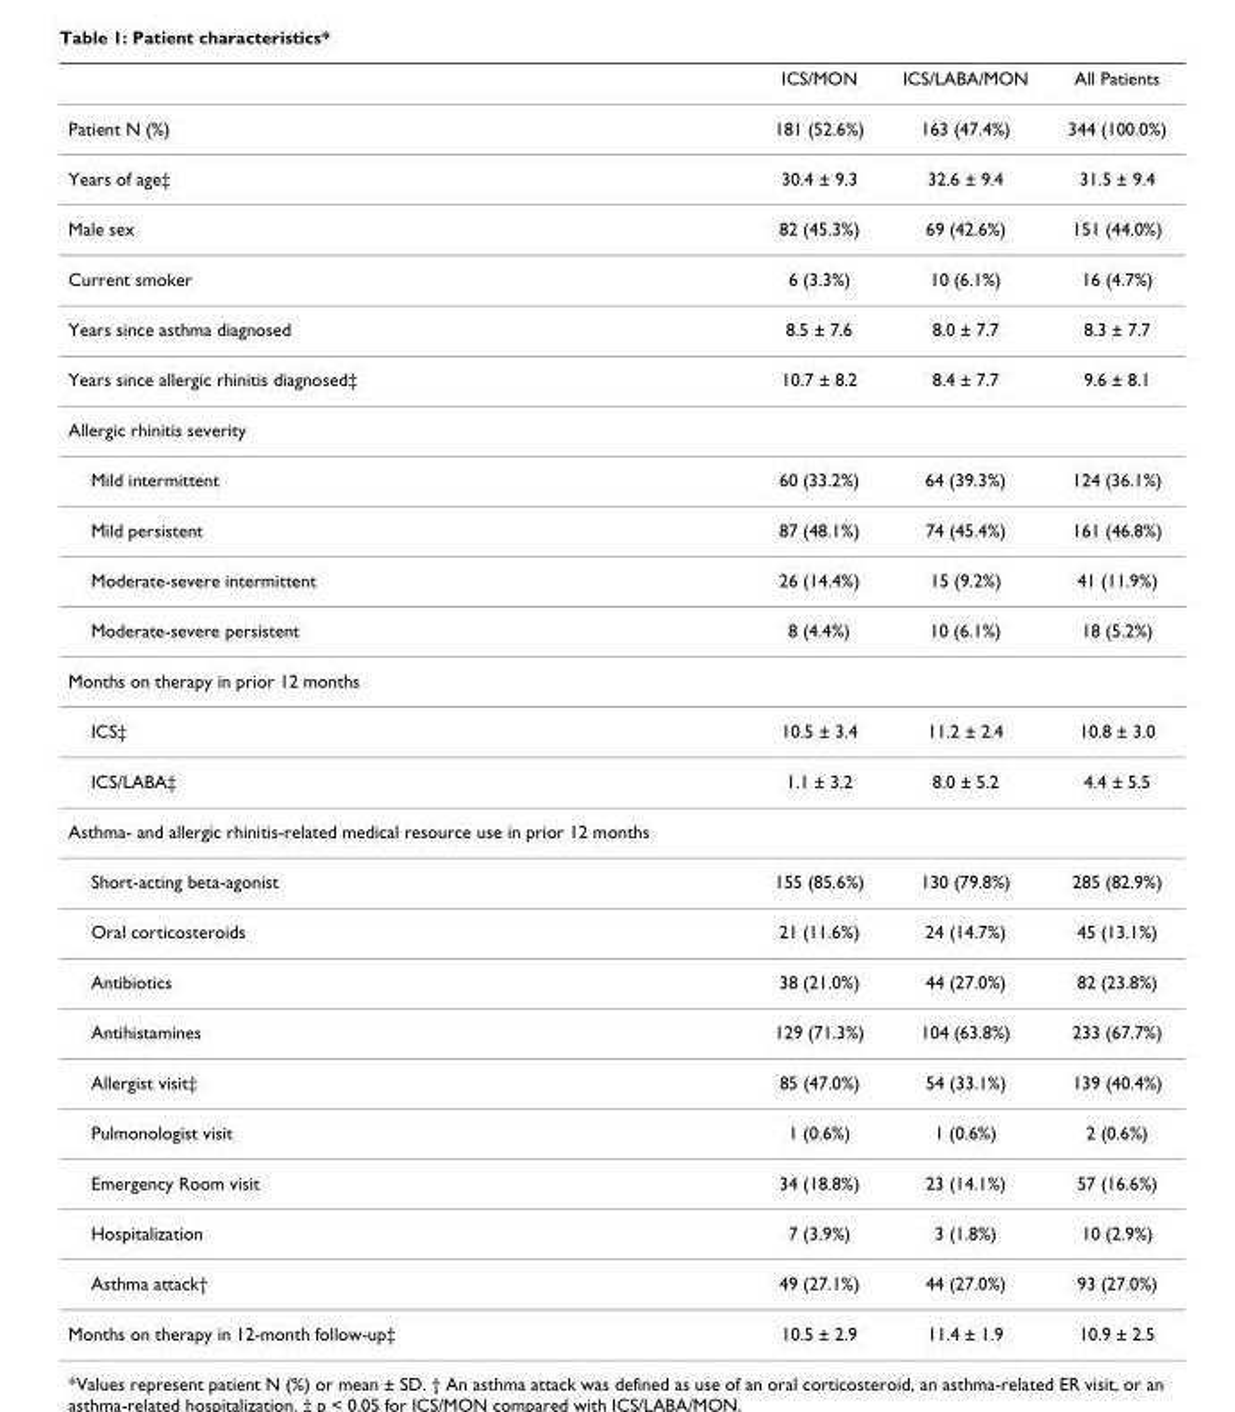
<table><thead><tr><td></td><td>ICS/MON</td><td>ICS/LABA/MON</td><td>All Patients</td></tr></thead><tbody><tr><td>Patient N (%)</td><td>181 (52.6%)</td><td>163 (47.4%)</td><td>344 (100.0%)</td></tr><tr><td>Years of age‡</td><td>30.4 ± 9.3</td><td>32.6 ± 9.4</td><td>31.5 ± 9.4</td></tr><tr><td>Male sex</td><td>82 (45.3%)</td><td>69 (42.6%)</td><td>151 (44.0%)</td></tr><tr><td>Current smoker</td><td>6 (3.3%)</td><td>10 (6.1%)</td><td>16 (4.7%)</td></tr><tr><td>Years since asthma diagnosed</td><td>8.5 ± 7.6</td><td>8.0 ± 7.7</td><td>8.3 ± 7.7</td></tr><tr><td>Years since allergic rhinitis diagnosed‡</td><td>10.7 ± 8.2</td><td>8.4 ± 7.7</td><td>9.6 ± 8.1</td></tr><tr><td colspan="4">Allergic rhinitis severity</td></tr><tr><td>Mild intermittent</td><td>60 (33.2%)</td><td>64 (39.3%)</td><td>124 (36.1%)</td></tr><tr><td>Mild persistent</td><td>87 (48.1%)</td><td>74 (45.4%)</td><td>161 (46.8%)</td></tr><tr><td>Moderate-severe intermittent</td><td>26 (14.4%)</td><td>15 (9.2%)</td><td>41 (11.9%)</td></tr><tr><td>Moderate-severe persistent</td><td>8 (4.4%)</td><td>10 (6.1%)</td><td>18 (5.2%)</td></tr><tr><td colspan="4">Months on therapy in prior 12 months</td></tr><tr><td>ICS‡</td><td>10.5 ± 3.4</td><td>11.2 ± 2.4</td><td>10.8 ± 3.0</td></tr><tr><td>ICS/LABA‡</td><td>1.1 ± 3.2</td><td>8.0 ± 5.2</td><td>4.4 ± 5.5</td></tr><tr><td colspan="4">Asthma- and allergic rhinitis-related medical resource use in prior 12 months</td></tr><tr><td>Short-acting beta-agonist</td><td>155 (85.6%)</td><td>130 (79.8%)</td><td>285 (82.9%)</td></tr><tr><td>Oral corticosteroids</td><td>21 (11.6%)</td><td>24 (14.7%)</td><td>45 (13.1%)</td></tr><tr><td>Antibiotics</td><td>38 (21.0%)</td><td>44 (27.0%)</td><td>82 (23.8%)</td></tr><tr><td>Antihistamines</td><td>129 (71.3%)</td><td>104 (63.8%)</td><td>233 (67.7%)</td></tr><tr><td>Allergist visit‡</td><td>85 (47.0%)</td><td>54 (33.1%)</td><td>139 (40.4%)</td></tr><tr><td>Pulmonologist visit</td><td>1 (0.6%)</td><td>1 (0.6%)</td><td>2 (0.6%)</td></tr><tr><td>Emergency Room visit</td><td>34 (18.8%)</td><td>23 (14.1%)</td><td>57 (16.6%)</td></tr><tr><td>Hospitalization</td><td>7 (3.9%)</td><td>3 (1.8%)</td><td>10 (2.9%)</td></tr><tr><td>Asthma attack†</td><td>49 (27.1%)</td><td>44 (27.0%)</td><td>93 (27.0%)</td></tr><tr><td>Months on therapy in 12-month follow-up‡</td><td>10.5 ± 2.9</td><td>11.4 ± 1.9</td><td>10.9 ± 2.5</td></tr></tbody></table>